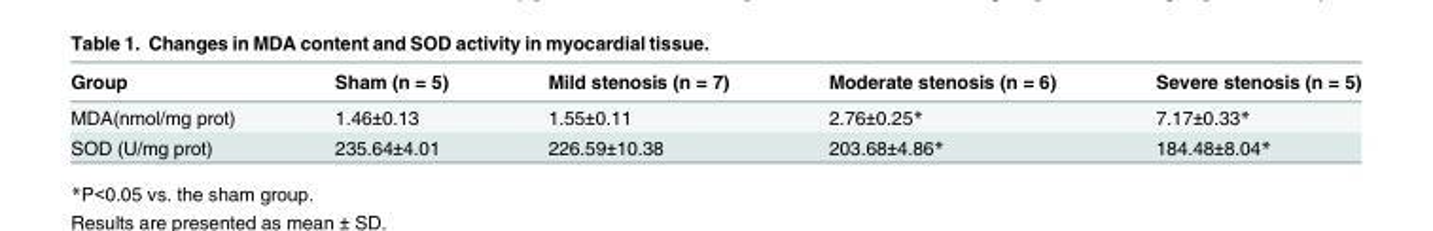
<table><thead><tr><td>Group</td><td>Sham (n = 5)</td><td>Mild stenosis (n = 7)</td><td>Moderate stenosis (n = 6)</td><td>Severe stenosis (n = 5)</td></tr></thead><tbody><tr><td>MDA(nmol/mg prot)</td><td>1.46±0.13</td><td>1.55±0.11</td><td>2.76±0.25*</td><td>7.17±0.33*</td></tr><tr><td>SOD (U/mg prot)</td><td>235.64±4.01</td><td>226.59±10.38</td><td>203.68±4.86*</td><td>184.48±8.04*</td></tr></tbody></table>